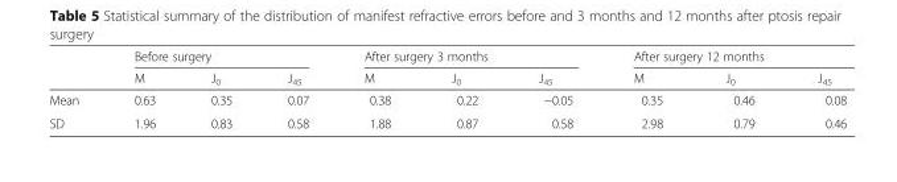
<table><thead><tr><td rowspan="2"></td><td colspan="3">Before surgery</td><td colspan="3">After surgery 3 months</td><td colspan="3">After surgery 12 months</td></tr><tr><td>M</td><td>J<sub>0</sub></td><td>J<sub>45</sub></td><td>M</td><td>J<sub>0</sub></td><td>J<sub>45</sub></td><td>M</td><td>J<sub>0</sub></td><td>J<sub>45</sub></td></tr></thead><tbody><tr><td>Mean</td><td>0.63</td><td>0.35</td><td>0.07</td><td>0.38</td><td>0.22</td><td>−0.05</td><td>0.35</td><td>0.46</td><td>0.08</td></tr><tr><td>SD</td><td>1.96</td><td>0.83</td><td>0.58</td><td>1.88</td><td>0.87</td><td>0.58</td><td>2.98</td><td>0.79</td><td>0.46</td></tr></tbody></table>